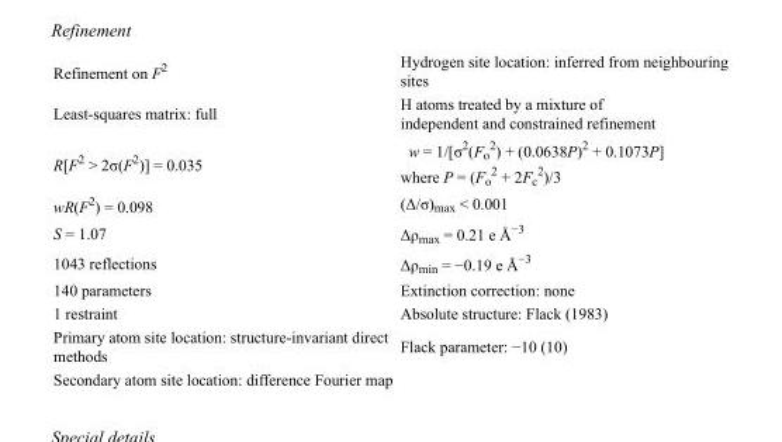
<table><tbody><tr><td>Refinement on F<sup>2</sup></td><td>Hydrogen site location: inferred from neighbouring sites</td></tr><tr><td>Least-squares matrix: full</td><td>H atoms treated by a mixture of independent and constrained refinement</td></tr><tr><td>R[F<sup>2</sup> &gt; 2σ(F<sup>2</sup>)] = 0.035</td><td>w = 1/[σ<sup>2</sup>(F<sub>o</sub> <sup>2</sup>) + (0.0638P)<sup>2</sup> + 0.1073P] where P = (F<sub>o</sub> <sup>2</sup> + 2F<sub>c</sub> <sup>2</sup>)/3</td></tr><tr><td>wR(F<sup>2</sup>) = 0.098</td><td>(Δ/σ)<sub>max</sub> &lt; 0.001</td></tr><tr><td>S = 1.07</td><td>Δρ<sub>max</sub> = 0.21 e Å<sup>−3</sup></td></tr><tr><td>1043 reflections</td><td>Δρ<sub>min</sub> = −0.19 e Å<sup>−3</sup></td></tr><tr><td>140 parameters</td><td>Extinction correction: none</td></tr><tr><td>1 restraint</td><td>Absolute structure: Flack (1983)</td></tr><tr><td>Primary atom site location: structure-invariant direct methods</td><td>Flack parameter: −10 (10)</td></tr><tr><td>Secondary atom site location: difference Fourier map</td><td></td></tr></tbody></table>